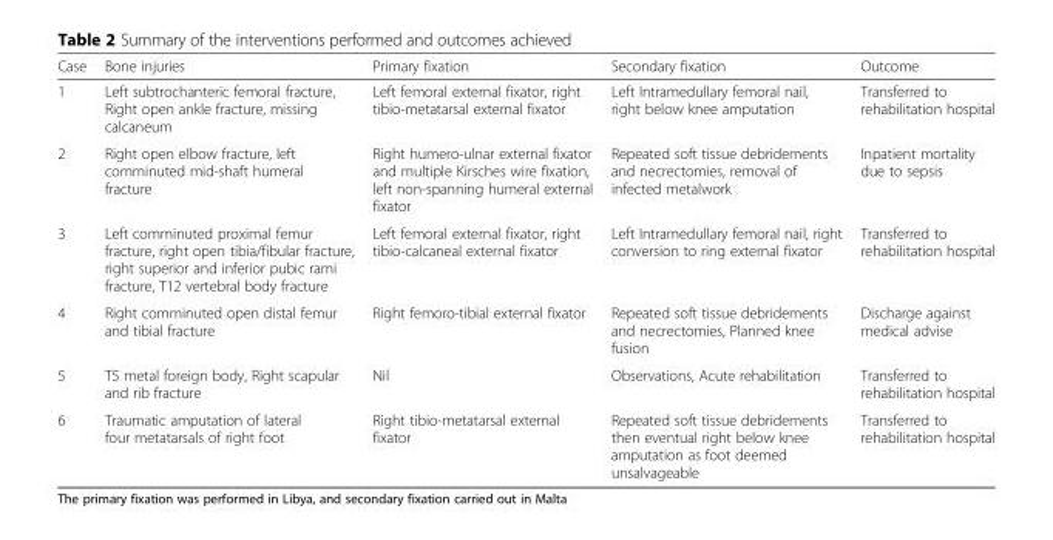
<table><thead><tr><td>Case</td><td>Bone injuries</td><td>Primary fixation</td><td>Secondary fixation</td><td>Outcome</td></tr></thead><tbody><tr><td>1</td><td>Left subtrochanteric femoral fracture, Right open ankle fracture, missing calcaneum</td><td>Left femoral external fixator, right tibio-metatarsal external fixator</td><td>Left Intramedullary femoral nail, right below knee amputation</td><td>Transferred to rehabilitation hospital</td></tr><tr><td>2</td><td>Right open elbow fracture, left comminuted mid-shaft humeral fracture</td><td>Right humero-ulnar external fixator and multiple Kirsches wire fixation, left non-spanning humeral external fixator</td><td>Repeated soft tissue debridements and necrectomies, removal of infected metalwork</td><td>Inpatient mortality due to sepsis</td></tr><tr><td>3</td><td>Left comminuted proximal femur fracture, right open tibia/fibular fracture, right superior and inferior pubic rami fracture, T12 vertebral body fracture</td><td>Left femoral external fixator, right tibio-calcaneal external fixator</td><td>Left Intramedullary femoral nail, right conversion to ring external fixator</td><td>Transferred to rehabilitation hospital</td></tr><tr><td>4</td><td>Right comminuted open distal femur and tibial fracture</td><td>Right femoro-tibial external fixator</td><td>Repeated soft tissue debridements and necrectomies, Planned knee fusion</td><td>Discharge against medical advise</td></tr><tr><td>5</td><td>T5 metal foreign body, Right scapular and rib fracture</td><td>Nil</td><td>Observations, Acute rehabilitation</td><td>Transferred to rehabilitation hospital</td></tr><tr><td>6</td><td>Traumatic amputation of lateral four metatarsals of right foot</td><td>Right tibio-metatarsal external fixator</td><td>Repeated soft tissue debridements then eventual right below knee amputation as foot deemed unsalvageable</td><td>Transferred to rehabilitation hospital</td></tr></tbody></table>